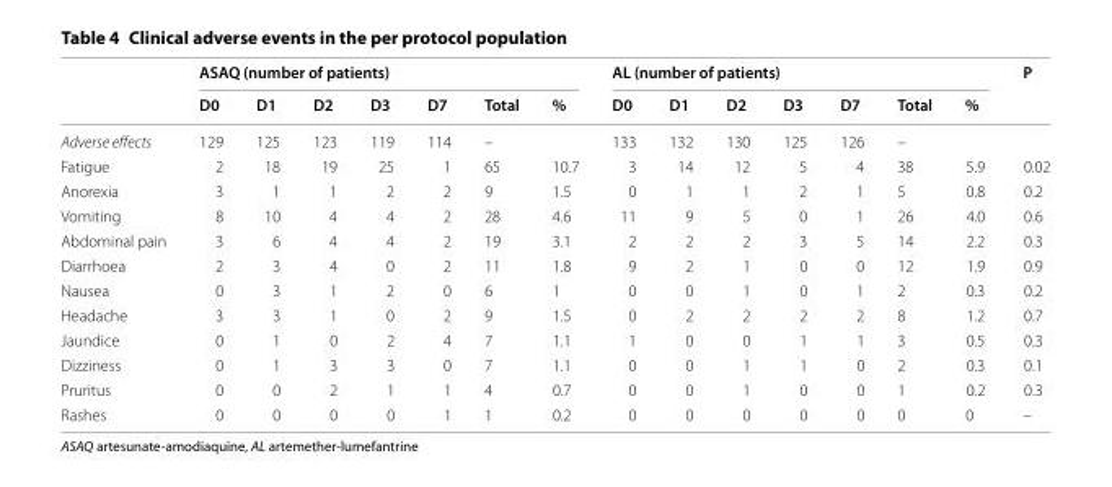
<table><thead><tr><td rowspan="2"></td><td colspan="7">ASAQ (number of patients)</td><td colspan="7">AL (number of patients)</td><td rowspan="2">P</td></tr><tr><td>D0</td><td>D1</td><td>D2</td><td>D3</td><td>D7</td><td>Total</td><td>%</td><td>D0</td><td>D1</td><td>D2</td><td>D3</td><td>D7</td><td>Total</td><td>%</td></tr></thead><tbody><tr><td>Adverse effects</td><td>129</td><td>125</td><td>123</td><td>119</td><td>114</td><td>–</td><td></td><td>133</td><td>132</td><td>130</td><td>125</td><td>126</td><td>–</td><td></td><td></td></tr><tr><td>Fatigue</td><td>2</td><td>18</td><td>19</td><td>25</td><td>1</td><td>65</td><td>10.7</td><td>3</td><td>14</td><td>12</td><td>5</td><td>4</td><td>38</td><td>5.9</td><td>0.02</td></tr><tr><td>Anorexia</td><td>3</td><td>1</td><td>1</td><td>2</td><td>2</td><td>9</td><td>1.5</td><td>0</td><td>1</td><td>1</td><td>2</td><td>1</td><td>5</td><td>0.8</td><td>0.2</td></tr><tr><td>Vomiting</td><td>8</td><td>10</td><td>4</td><td>4</td><td>2</td><td>28</td><td>4.6</td><td>11</td><td>9</td><td>5</td><td>0</td><td>1</td><td>26</td><td>4.0</td><td>0.6</td></tr><tr><td>Abdominal pain</td><td>3</td><td>6</td><td>4</td><td>4</td><td>2</td><td>19</td><td>3.1</td><td>2</td><td>2</td><td>2</td><td>3</td><td>5</td><td>14</td><td>2.2</td><td>0.3</td></tr><tr><td>Diarrhoea</td><td>2</td><td>3</td><td>4</td><td>0</td><td>2</td><td>11</td><td>1.8</td><td>9</td><td>2</td><td>1</td><td>0</td><td>0</td><td>12</td><td>1.9</td><td>0.9</td></tr><tr><td>Nausea</td><td>0</td><td>3</td><td>1</td><td>2</td><td>0</td><td>6</td><td>1</td><td>0</td><td>0</td><td>1</td><td>0</td><td>1</td><td>2</td><td>0.3</td><td>0.2</td></tr><tr><td>Headache</td><td>3</td><td>3</td><td>1</td><td>0</td><td>2</td><td>9</td><td>1.5</td><td>0</td><td>2</td><td>2</td><td>2</td><td>2</td><td>8</td><td>1.2</td><td>0.7</td></tr><tr><td>Jaundice</td><td>0</td><td>1</td><td>0</td><td>2</td><td>4</td><td>7</td><td>1.1</td><td>1</td><td>0</td><td>0</td><td>1</td><td>1</td><td>3</td><td>0.5</td><td>0.3</td></tr><tr><td>Dizziness</td><td>0</td><td>1</td><td>3</td><td>3</td><td>0</td><td>7</td><td>1.1</td><td>0</td><td>0</td><td>1</td><td>1</td><td>0</td><td>2</td><td>0.3</td><td>0.1</td></tr><tr><td>Pruritus</td><td>0</td><td>0</td><td>2</td><td>1</td><td>1</td><td>4</td><td>0.7</td><td>0</td><td>0</td><td>1</td><td>0</td><td>0</td><td>1</td><td>0.2</td><td>0.3</td></tr><tr><td>Rashes</td><td>0</td><td>0</td><td>0</td><td>0</td><td>1</td><td>1</td><td>0.2</td><td>0</td><td>0</td><td>0</td><td>0</td><td>0</td><td>0</td><td>0</td><td>–</td></tr></tbody></table>